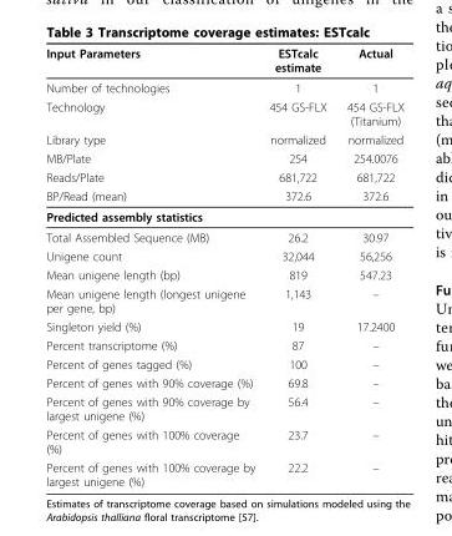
<table><thead><tr><td>Input Parameters</td><td>ESTcalc estimate</td><td>Actual</td></tr></thead><tbody><tr><td>Number of technologies</td><td>1</td><td>1</td></tr><tr><td>Technology</td><td>454 GS-FLX</td><td>454 GS-FLX (Titanium)</td></tr><tr><td>Library type</td><td>normalized</td><td>normalized</td></tr><tr><td>MB/Plate</td><td>254</td><td>254.0076</td></tr><tr><td>Reads/Plate</td><td>681,722</td><td>681,722</td></tr><tr><td>BP/Read (mean)</td><td>372.6</td><td>372.6</td></tr><tr><td colspan="3">Predicted assembly statistics</td></tr><tr><td>Total Assembled Sequence (MB)</td><td>26.2</td><td>30.97</td></tr><tr><td>Unigene count</td><td>32,044</td><td>56,256</td></tr><tr><td>Mean unigene length (bp)</td><td>819</td><td>547.23</td></tr><tr><td>Mean unigene length (longest unigene per gene, bp)</td><td>1,143</td><td>–</td></tr><tr><td>Singleton yield (%)</td><td>19</td><td>17.2400</td></tr><tr><td>Percent transcriptome (%)</td><td>87</td><td>–</td></tr><tr><td>Percent of genes tagged (%)</td><td>100</td><td>–</td></tr><tr><td>Percent of genes with 90% coverage (%)</td><td>69.8</td><td>–</td></tr><tr><td>Percent of genes with 90% coverage by largest unigene (%)</td><td>56.4</td><td>–</td></tr><tr><td>Percent of genes with 100% coverage (%)</td><td>23.7</td><td>–</td></tr><tr><td>Percent of genes with 100% coverage by largest unigene (%)</td><td>22.2</td><td>–</td></tr></tbody></table>